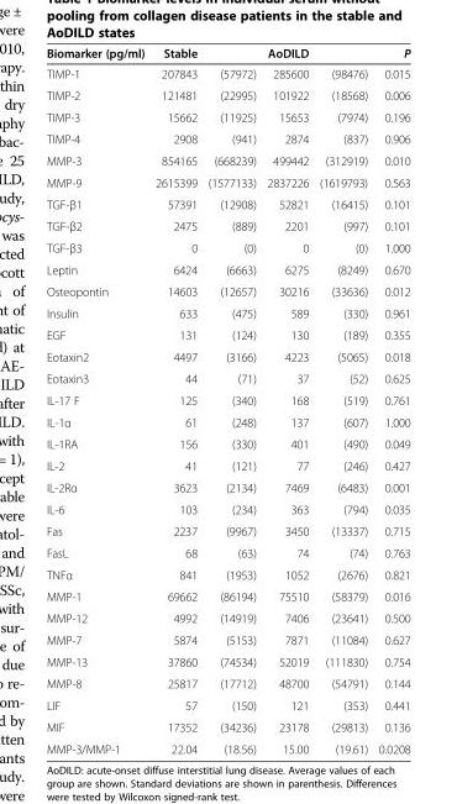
<table><thead><tr><td>Biomarker (pg/ml)</td><td>Stable</td><td></td><td>AoDILD</td><td></td><td>P</td></tr></thead><tbody><tr><td>TIMP-1</td><td>207843</td><td>(57972)</td><td>285600</td><td>(98476)</td><td>0.015</td></tr><tr><td>TIMP-2</td><td>121481</td><td>(22995)</td><td>101922</td><td>(18568)</td><td>0.006</td></tr><tr><td>TIMP-3</td><td>15662</td><td>(11925)</td><td>15653</td><td>(7974)</td><td>0.196</td></tr><tr><td>TIMP-4</td><td>2908</td><td>(941)</td><td>2874</td><td>(837)</td><td>0.906</td></tr><tr><td>MMP-3</td><td>854165</td><td>(668239)</td><td>499442</td><td>(312919)</td><td>0.010</td></tr><tr><td>MMP-9</td><td>2615399</td><td>(1577133)</td><td>2837226</td><td>(1619793)</td><td>0.563</td></tr><tr><td>TGF-β1</td><td>57391</td><td>(12908)</td><td>52821</td><td>(16415)</td><td>0.101</td></tr><tr><td>TGF-β2</td><td>2475</td><td>(889)</td><td>2201</td><td>(997)</td><td>0.101</td></tr><tr><td>TGF-β3</td><td>0</td><td>(0)</td><td>0</td><td>(0)</td><td>1.000</td></tr><tr><td>Leptin</td><td>6424</td><td>(6663)</td><td>6275</td><td>(8249)</td><td>0.670</td></tr><tr><td>Osteopontin</td><td>14603</td><td>(12657)</td><td>30216</td><td>(33636)</td><td>0.012</td></tr><tr><td>Insulin</td><td>633</td><td>(475)</td><td>589</td><td>(330)</td><td>0.961</td></tr><tr><td>EGF</td><td>131</td><td>(124)</td><td>130</td><td>(189)</td><td>0.355</td></tr><tr><td>Eotaxin2</td><td>4497</td><td>(3166)</td><td>4223</td><td>(5065)</td><td>0.018</td></tr><tr><td>Eotaxin3</td><td>44</td><td>(71)</td><td>37</td><td>(52)</td><td>0.625</td></tr><tr><td>IL-17 F</td><td>125</td><td>(340)</td><td>168</td><td>(519)</td><td>0.761</td></tr><tr><td>IL-1α</td><td>61</td><td>(248)</td><td>137</td><td>(607)</td><td>1.000</td></tr><tr><td>IL-1RA</td><td>156</td><td>(330)</td><td>401</td><td>(490)</td><td>0.049</td></tr><tr><td>IL-2</td><td>41</td><td>(121)</td><td>77</td><td>(246)</td><td>0.427</td></tr><tr><td>IL-2Rα</td><td>3623</td><td>(2134)</td><td>7469</td><td>(6483)</td><td>0.001</td></tr><tr><td>IL-6</td><td>103</td><td>(234)</td><td>363</td><td>(794)</td><td>0.035</td></tr><tr><td>Fas</td><td>2237</td><td>(9967)</td><td>3450</td><td>(13337)</td><td>0.715</td></tr><tr><td>FasL</td><td>68</td><td>(63)</td><td>74</td><td>(74)</td><td>0.763</td></tr><tr><td>TNFα</td><td>841</td><td>(1953)</td><td>1052</td><td>(2676)</td><td>0.821</td></tr><tr><td>MMP-1</td><td>69662</td><td>(86194)</td><td>75510</td><td>(58379)</td><td>0.016</td></tr><tr><td>MMP-12</td><td>4992</td><td>(14919)</td><td>7406</td><td>(23641)</td><td>0.500</td></tr><tr><td>MMP-7</td><td>5874</td><td>(5153)</td><td>7871</td><td>(11084)</td><td>0.627</td></tr><tr><td>MMP-13</td><td>37860</td><td>(74534)</td><td>52019</td><td>(111830)</td><td>0.754</td></tr><tr><td>MMP-8</td><td>25817</td><td>(17712)</td><td>48700</td><td>(54791)</td><td>0.144</td></tr><tr><td>LIF</td><td>57</td><td>(150)</td><td>121</td><td>(353)</td><td>0.441</td></tr><tr><td>MIF</td><td>17352</td><td>(34236)</td><td>23178</td><td>(29813)</td><td>0.136</td></tr><tr><td>MMP-3/MMP-1</td><td>22.04</td><td>(18.56)</td><td>15.00</td><td>(19.61)</td><td>0.0208</td></tr></tbody></table>